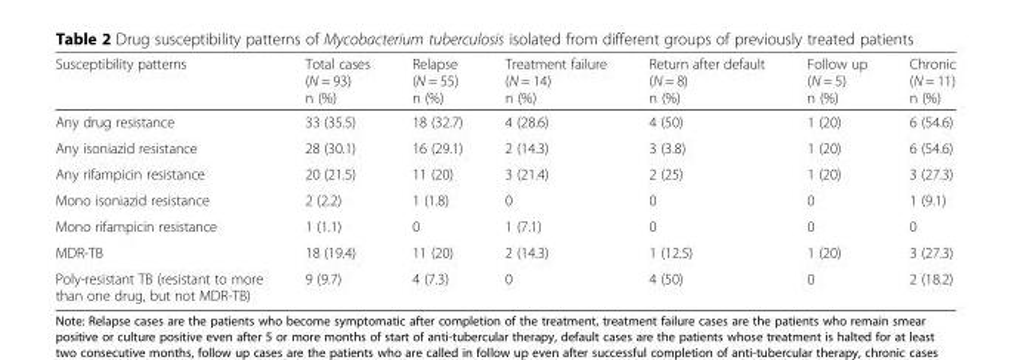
<table><thead><tr><td>Susceptibility patterns</td><td>Total cases (N = 93) n (%)</td><td>Relapse (N = 55) n (%)</td><td>Treatment failure (N = 14) n (%)</td><td>Return after default (N = 8) n (%)</td><td>Follow up (N = 5) n (%)</td><td>Chronic (N = 11) n (%)</td></tr></thead><tbody><tr><td>Any drug resistance</td><td>33 (35.5)</td><td>18 (32.7)</td><td>4 (28.6)</td><td>4 (50)</td><td>1 (20)</td><td>6 (54.6)</td></tr><tr><td>Any isoniazid resistance</td><td>28 (30.1)</td><td>16 (29.1)</td><td>2 (14.3)</td><td>3 (3.8)</td><td>1 (20)</td><td>6 (54.6)</td></tr><tr><td>Any rifampicin resistance</td><td>20 (21.5)</td><td>11 (20)</td><td>3 (21.4)</td><td>2 (25)</td><td>1 (20)</td><td>3 (27.3)</td></tr><tr><td>Mono isoniazid resistance</td><td>2 (2.2)</td><td>1 (1.8)</td><td>0</td><td>0</td><td>0</td><td>1 (9.1)</td></tr><tr><td>Mono rifampicin resistance</td><td>1 (1.1)</td><td>0</td><td>1 (7.1)</td><td>0</td><td>0</td><td>0</td></tr><tr><td>MDR-TB</td><td>18 (19.4)</td><td>11 (20)</td><td>2 (14.3)</td><td>1 (12.5)</td><td>1 (20)</td><td>3 (27.3)</td></tr><tr><td>Poly-resistant TB (resistant to more than one drug, but not MDR-TB)</td><td>9 (9.7)</td><td>4 (7.3)</td><td>0</td><td>4 (50)</td><td>0</td><td>2 (18.2)</td></tr></tbody></table>